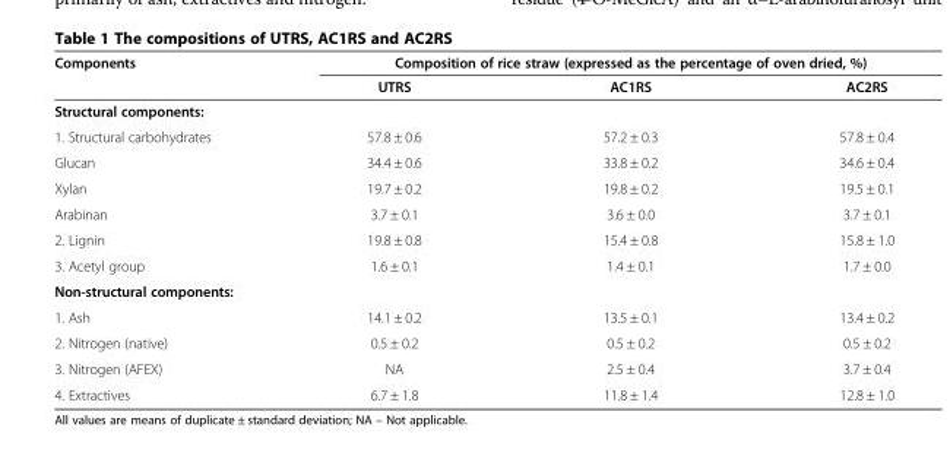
<table><thead><tr><td rowspan="2">Components</td><td colspan="3">Composition of rice straw (expressed as the percentage of oven dried, %)</td></tr><tr><td>UTRS</td><td>AC1RS</td><td>AC2RS</td></tr></thead><tbody><tr><td colspan="4">Structural components:</td></tr><tr><td>1. Structural carbohydrates</td><td>57.8 ± 0.6</td><td>57.2 ± 0.3</td><td>57.8 ± 0.4</td></tr><tr><td>Glucan</td><td>34.4 ± 0.6</td><td>33.8 ± 0.2</td><td>34.6 ± 0.4</td></tr><tr><td>Xylan</td><td>19.7 ± 0.2</td><td>19.8 ± 0.2</td><td>19.5 ± 0.1</td></tr><tr><td>Arabinan</td><td>3.7 ± 0.1</td><td>3.6 ± 0.0</td><td>3.7 ± 0.1</td></tr><tr><td>2. Lignin</td><td>19.8 ± 0.8</td><td>15.4 ± 0.8</td><td>15.8 ± 1.0</td></tr><tr><td>3. Acetyl group</td><td>1.6 ± 0.1</td><td>1.4 ± 0.1</td><td>1.7 ± 0.0</td></tr><tr><td colspan="4">Non-structural components:</td></tr><tr><td>1. Ash</td><td>14.1 ± 0.2</td><td>13.5 ± 0.1</td><td>13.4 ± 0.2</td></tr><tr><td>2. Nitrogen (native)</td><td>0.5 ± 0.2</td><td>0.5 ± 0.2</td><td>0.5 ± 0.2</td></tr><tr><td>3. Nitrogen (AFEX)</td><td>NA</td><td>2.5 ± 0.4</td><td>3.7 ± 0.4</td></tr><tr><td>4. Extractives</td><td>6.7 ± 1.8</td><td>11.8 ± 1.4</td><td>12.8 ± 1.0</td></tr></tbody></table>